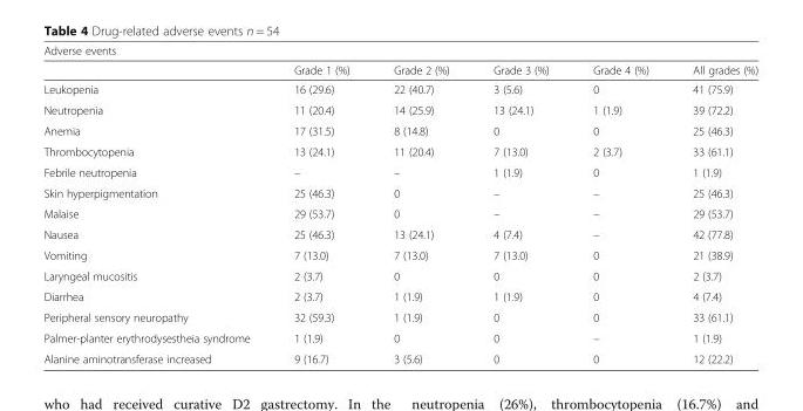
<table><thead><tr><td colspan="6">Adverse events</td></tr><tr><td></td><td>Grade 1 (%)</td><td>Grade 2 (%)</td><td>Grade 3 (%)</td><td>Grade 4 (%)</td><td>All grades (%)</td></tr></thead><tbody><tr><td>Leukopenia</td><td>16 (29.6)</td><td>22 (40.7)</td><td>3 (5.6)</td><td>0</td><td>41 (75.9)</td></tr><tr><td>Neutropenia</td><td>11 (20.4)</td><td>14 (25.9)</td><td>13 (24.1)</td><td>1 (1.9)</td><td>39 (72.2)</td></tr><tr><td>Anemia</td><td>17 (31.5)</td><td>8 (14.8)</td><td>0</td><td>0</td><td>25 (46.3)</td></tr><tr><td>Thrombocytopenia</td><td>13 (24.1)</td><td>11 (20.4)</td><td>7 (13.0)</td><td>2 (3.7)</td><td>33 (61.1)</td></tr><tr><td>Febrile neutropenia</td><td>–</td><td>–</td><td>1 (1.9)</td><td>0</td><td>1 (1.9)</td></tr><tr><td>Skin hyperpigmentation</td><td>25 (46.3)</td><td>0</td><td>–</td><td>–</td><td>25 (46.3)</td></tr><tr><td>Malaise</td><td>29 (53.7)</td><td>0</td><td>–</td><td>–</td><td>29 (53.7)</td></tr><tr><td>Nausea</td><td>25 (46.3)</td><td>13 (24.1)</td><td>4 (7.4)</td><td>–</td><td>42 (77.8)</td></tr><tr><td>Vomiting</td><td>7 (13.0)</td><td>7 (13.0)</td><td>7 (13.0)</td><td>0</td><td>21 (38.9)</td></tr><tr><td>Laryngeal mucositis</td><td>2 (3.7)</td><td>0</td><td>0</td><td>0</td><td>2 (3.7)</td></tr><tr><td>Diarrhea</td><td>2 (3.7)</td><td>1 (1.9)</td><td>1 (1.9)</td><td>0</td><td>4 (7.4)</td></tr><tr><td>Peripheral sensory neuropathy</td><td>32 (59.3)</td><td>1 (1.9)</td><td>0</td><td>0</td><td>33 (61.1)</td></tr><tr><td>Palmer-planter erythrodysestheia syndrome</td><td>1 (1.9)</td><td>0</td><td>0</td><td>–</td><td>1 (1.9)</td></tr><tr><td>Alanine aminotransferase increased</td><td>9 (16.7)</td><td>3 (5.6)</td><td>0</td><td>0</td><td>12 (22.2)</td></tr></tbody></table>